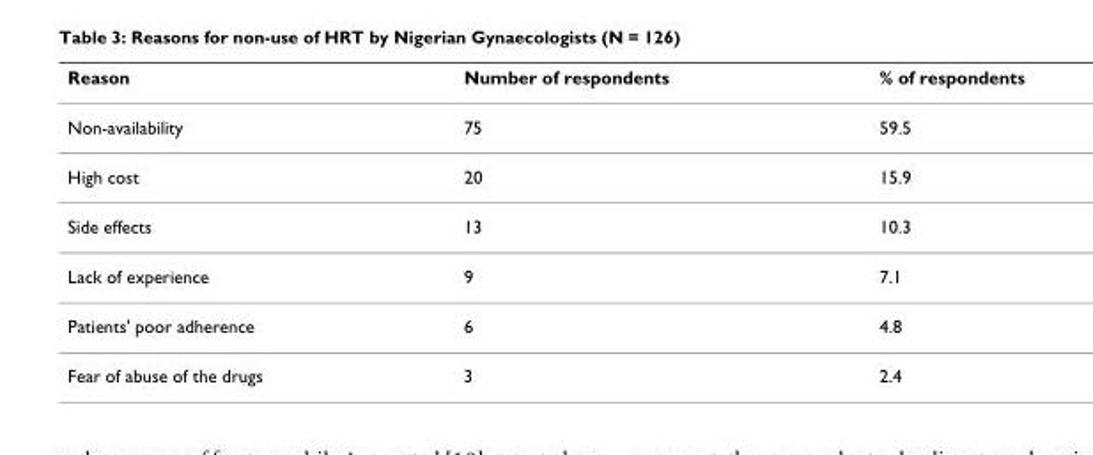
<table><thead><tr><td>Reason</td><td>Number of respondents</td><td>% of respondents</td></tr></thead><tbody><tr><td>Non-availability</td><td>75</td><td>59.5</td></tr><tr><td>High cost</td><td>20</td><td>15.9</td></tr><tr><td>Side effects</td><td>13</td><td>10.3</td></tr><tr><td>Lack of experience</td><td>9</td><td>7.1</td></tr><tr><td>Patients&#x27; poor adherence</td><td>6</td><td>4.8</td></tr><tr><td>Fear of abuse of the drugs</td><td>3</td><td>2.4</td></tr></tbody></table>